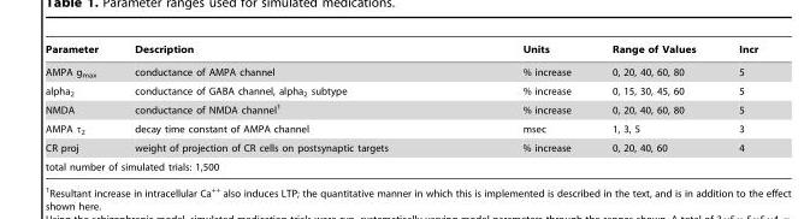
<table><thead><tr><td>Parameter</td><td>Description</td><td>Units</td><td>Range of Values</td><td>Incr</td></tr></thead><tbody><tr><td>AMPA g<sub>max</sub></td><td>conductance of AMPA channel</td><td>% increase</td><td>0, 20, 40, 60, 80</td><td>5</td></tr><tr><td>alpha<sub>2</sub></td><td>conductance of GABA channel, alpha<sub>2</sub> subtype</td><td>% increase</td><td>0, 15, 30, 45, 60</td><td>5</td></tr><tr><td>NMDA</td><td>conductance of NMDA channel<sup>1</sup></td><td>% increase</td><td>0, 20, 40, 60, 80</td><td>5</td></tr><tr><td>AMPA τ<sub>2</sub></td><td>decay time constant of AMPA channel</td><td>msec</td><td>1, 3, 5</td><td>3</td></tr><tr><td>CR proj</td><td>weight of projection of CR cells on postsynaptic targets</td><td>% increase</td><td>0, 20, 40, 60</td><td>4</td></tr><tr><td colspan="5">total number of simulated trials: 1,500</td></tr></tbody></table>